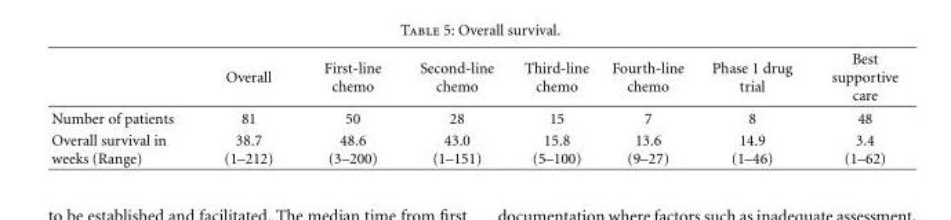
<table><thead><tr><td></td><td>Overall</td><td>First-line chemo</td><td>Second-line chemo</td><td>Third-line chemo</td><td>Fourth-line chemo</td><td>Phase 1 drug trial</td><td>Best supportive care</td></tr></thead><tbody><tr><td>Number of patients</td><td>81</td><td>50</td><td>28</td><td>15</td><td>7</td><td>8</td><td>48</td></tr><tr><td>Overall survival in weeks (Range)</td><td>38.7 (1–212)</td><td>48.6 (3–200)</td><td>43.0 (1–151)</td><td>15.8 (5–100)</td><td>13.6 (9–27)</td><td>14.9 (1–46)</td><td>3.4 (1–62)</td></tr></tbody></table>